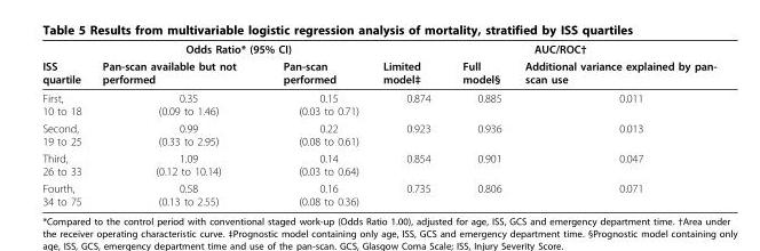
<table><thead><tr><td rowspan="2">ISS quartile</td><td colspan="2">Odds Ratio* (95% CI)</td><td colspan="3">AUC/ROC†</td></tr><tr><td>Pan-scan available but not performed</td><td>Pan-scan performed</td><td>Limited model‡</td><td>Full model§</td><td>Additional variance explained by pan- scan use</td></tr></thead><tbody><tr><td>First, 10 to 18</td><td>0.35 (0.09 to 1.46)</td><td>0.15 (0.03 to 0.71)</td><td>0.874</td><td>0.885</td><td>0.011</td></tr><tr><td>Second, 19 to 25</td><td>0.99 (0.33 to 2.95)</td><td>0.22 (0.08 to 0.61)</td><td>0.923</td><td>0.936</td><td>0.013</td></tr><tr><td>Third, 26 to 33</td><td>1.09 (0.12 to 10.14)</td><td>0.14 (0.03 to 0.64)</td><td>0.854</td><td>0.901</td><td>0.047</td></tr><tr><td>Fourth, 34 to 75</td><td>0.58 (0.13 to 2.55)</td><td>0.16 (0.08 to 0.36)</td><td>0.735</td><td>0.806</td><td>0.071</td></tr></tbody></table>